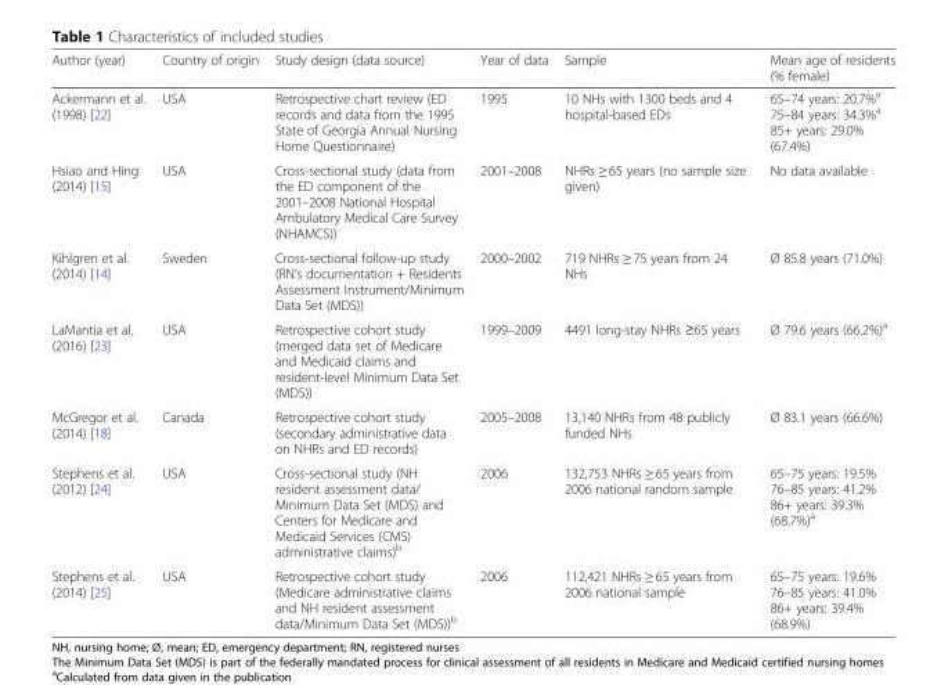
<table><thead><tr><td>Author (year)</td><td>Country of origin</td><td>Study design (data source)</td><td>Year of data</td><td>Sample</td><td>Mean age of residents (% female)</td></tr></thead><tbody><tr><td>Ackermann et al. (1998) [22]</td><td>USA</td><td>Retrospective chart review (ED records and data from the 1995 State of Georgia Annual Nursing Home Questionnaire)</td><td>1995</td><td>10 NHs with 1300 beds and 4 hospital-based EDs</td><td>65–74 years: 20.7%<sup>a</sup> 75–84 years: 34.3%<sup>a</sup> 85+ years: 29.0% (67.4%)</td></tr><tr><td>Hsiao and Hing (2014) [15]</td><td>USA</td><td>Cross-sectional study (data from the ED component of the 2001–2008 National Hospital Ambulatory Medical Care Survey (NHAMCS))</td><td>2001–2008</td><td>NHRs ≥ 65 years (no sample size given)</td><td>No data available</td></tr><tr><td>Kihlgren et al. (2014) [14]</td><td>Sweden</td><td>Cross-sectional follow-up study (RN’s documentation + Residents Assessment Instrument/Minimum Data Set (MDS))</td><td>2000–2002</td><td>719 NHRs ≥ 75 years from 24 NHs</td><td>Ø 85.8 years (71.0%)</td></tr><tr><td>LaMantia et al. (2016) [23]</td><td>USA</td><td>Retrospective cohort study (merged data set of Medicare and Medicaid claims and resident-level Minimum Data Set (MDS))</td><td>1999–2009</td><td>4491 long-stay NHRs ≥65 years</td><td>Ø 79.6 years (66.2%)<sup>a</sup></td></tr><tr><td>McGregor et al. (2014) [18]</td><td>Canada</td><td>Retrospective cohort study (secondary administrative data on NHRs and ED records)</td><td>2005–2008</td><td>13,140 NHRs from 48 publicly funded NHs</td><td>Ø 83.1 years (66.6%)</td></tr><tr><td>Stephens et al. (2012) [24]</td><td>USA</td><td>Cross-sectional study (NH resident assessment data/ Minimum Data Set (MDS) and Centers for Medicare and Medicaid Services (CMS) administrative claims)<sup>b</sup></td><td>2006</td><td>132,753 NHRs ≥ 65 years from 2006 national random sample</td><td>65–75 years: 19.5% 76–85 years: 41.2% 86+ years: 39.3% (68.7%)<sup>a</sup></td></tr><tr><td>Stephens et al. (2014) [25]</td><td>USA</td><td>Retrospective cohort study (Medicare administrative claims and NH resident assessment data/Minimum Data Set (MDS))<sup>b</sup></td><td>2006</td><td>112,421 NHRs ≥ 65 years from 2006 national sample</td><td>65–75 years: 19.6% 76–85 years: 41.0% 86+ years: 39.4% (68.9%)</td></tr></tbody></table>